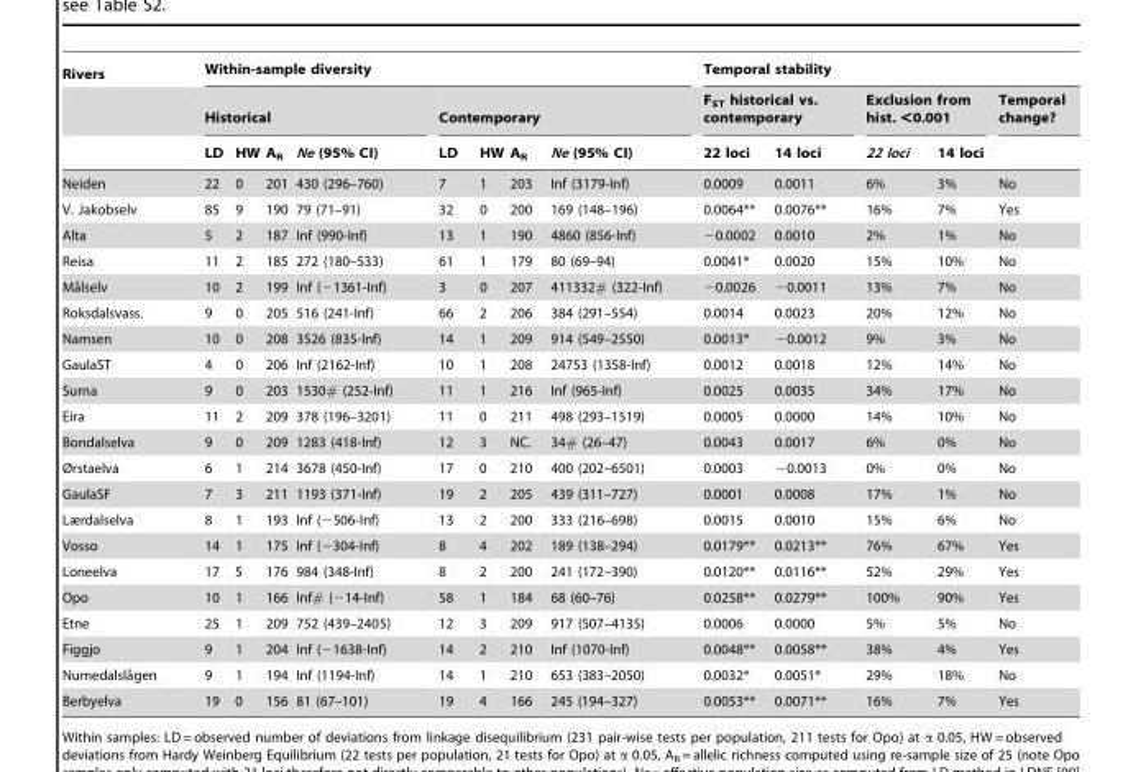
<table><thead><tr><td rowspan="3">Rivers</td><td colspan="8">Within-sample diversity</td><td colspan="5">Temporal stability</td></tr><tr><td colspan="4">Historical</td><td colspan="4">Contemporary</td><td colspan="2">F<sub>ST</sub> historical vs. contemporary</td><td colspan="2">Exclusion from hist. &lt;0.001</td><td rowspan="2">Temporal change?</td></tr><tr><td>LD</td><td>HW</td><td>A<sub>R</sub></td><td>Ne (95% CI)</td><td>LD</td><td>HW</td><td>A<sub>R</sub></td><td>Ne (95% CI)</td><td>22 loci</td><td>14 loci</td><td>22 loci</td><td>14 loci</td></tr></thead><tbody><tr><td>Neiden</td><td>22</td><td>0</td><td>201</td><td>430 (296–760)</td><td>7</td><td>1</td><td>203</td><td>Inf (3179-Inf)</td><td>0.0009</td><td>0.0011</td><td>6%</td><td>3%</td><td>No</td></tr><tr><td>V. Jakobselv</td><td>85</td><td>9</td><td>190</td><td>79 (71–91)</td><td>32</td><td>0</td><td>200</td><td>169 (148–196)</td><td>0.0064**</td><td>0.0076**</td><td>16%</td><td>7%</td><td>Yes</td></tr><tr><td>Alta</td><td>5</td><td>2</td><td>187</td><td>Inf (990-Inf)</td><td>13</td><td>1</td><td>190</td><td>4860 (856-Inf)</td><td>−0.0002</td><td>0.0010</td><td>2%</td><td>1%</td><td>No</td></tr><tr><td>Reisa</td><td>11</td><td>2</td><td>185</td><td>272 (180–533)</td><td>61</td><td>1</td><td>179</td><td>80 (69–94)</td><td>0.0041*</td><td>0.0020</td><td>15%</td><td>10%</td><td>No</td></tr><tr><td>Ma˚lselv</td><td>10</td><td>2</td><td>199</td><td>Inf (−1361-Inf)</td><td>3</td><td>0</td><td>207</td><td>411332# (322-Inf)</td><td>−0.0026</td><td>−0.0011</td><td>13%</td><td>7%</td><td>No</td></tr><tr><td>Roksdalsvass.</td><td>9</td><td>0</td><td>205</td><td>516 (241-Inf)</td><td>66</td><td>2</td><td>206</td><td>384 (291–554)</td><td>0.0014</td><td>0.0023</td><td>20%</td><td>12%</td><td>No</td></tr><tr><td>Namsen</td><td>10</td><td>0</td><td>208</td><td>3526 (835-Inf)</td><td>14</td><td>1</td><td>209</td><td>914 (549–2550)</td><td>0.0013*</td><td>−0.0012</td><td>9%</td><td>3%</td><td>No</td></tr><tr><td>GaulaST</td><td>4</td><td>0</td><td>206</td><td>Inf (2162-Inf)</td><td>10</td><td>1</td><td>208</td><td>24753 (1358-Inf)</td><td>0.0012</td><td>0.0018</td><td>12%</td><td>14%</td><td>No</td></tr><tr><td>Surna</td><td>9</td><td>0</td><td>203</td><td>1530# (252-Inf)</td><td>11</td><td>1</td><td>216</td><td>Inf (965-Inf)</td><td>0.0025</td><td>0.0035</td><td>34%</td><td>17%</td><td>No</td></tr><tr><td>Eira</td><td>11</td><td>2</td><td>209</td><td>378 (196–3201)</td><td>11</td><td>0</td><td>211</td><td>498 (293–1519)</td><td>0.0005</td><td>0.0000</td><td>14%</td><td>10%</td><td>No</td></tr><tr><td>Bondalselva</td><td>9</td><td>0</td><td>209</td><td>1283 (418-Inf)</td><td>12</td><td>3</td><td>NC.</td><td>34# (26–47)</td><td>0.0043</td><td>0.0017</td><td>6%</td><td>0%</td><td>No</td></tr><tr><td>Ørstaelva</td><td>6</td><td>1</td><td>214</td><td>3678 (450-Inf)</td><td>17</td><td>0</td><td>210</td><td>400 (202–6501)</td><td>0.0003</td><td>−0.0013</td><td>0%</td><td>0%</td><td>No</td></tr><tr><td>GaulaSF</td><td>7</td><td>3</td><td>211</td><td>1193 (371-Inf)</td><td>19</td><td>2</td><td>205</td><td>439 (311–727)</td><td>0.0001</td><td>0.0008</td><td>17%</td><td>1%</td><td>No</td></tr><tr><td>Lærdalselva</td><td>8</td><td>1</td><td>193</td><td>Inf (−506-Inf)</td><td>13</td><td>2</td><td>200</td><td>333 (216–698)</td><td>0.0015</td><td>0.0010</td><td>15%</td><td>6%</td><td>No</td></tr><tr><td>Vosso</td><td>14</td><td>1</td><td>175</td><td>Inf (−304-Inf)</td><td>8</td><td>4</td><td>202</td><td>189 (138–294)</td><td>0.0179**</td><td>0.0213**</td><td>76%</td><td>67%</td><td>Yes</td></tr><tr><td>Loneelva</td><td>17</td><td>5</td><td>176</td><td>984 (348-Inf)</td><td>8</td><td>2</td><td>200</td><td>241 (172–390)</td><td>0.0120**</td><td>0.0116**</td><td>52%</td><td>29%</td><td>Yes</td></tr><tr><td>Opo</td><td>10</td><td>1</td><td>166</td><td>Inf# (−14-Inf)</td><td>58</td><td>1</td><td>184</td><td>68 (60–76)</td><td>0.0258**</td><td>0.0279**</td><td>100%</td><td>90%</td><td>Yes</td></tr><tr><td>Etne</td><td>25</td><td>1</td><td>209</td><td>752 (439–2405)</td><td>12</td><td>3</td><td>209</td><td>917 (507–4135)</td><td>0.0006</td><td>0.0000</td><td>5%</td><td>5%</td><td>No</td></tr><tr><td>Figgjo</td><td>9</td><td>1</td><td>204</td><td>Inf (−1638-Inf)</td><td>14</td><td>2</td><td>210</td><td>Inf (1070-Inf)</td><td>0.0048**</td><td>0.0058**</td><td>38%</td><td>4%</td><td>Yes</td></tr><tr><td>Numedalsla˚gen</td><td>9</td><td>1</td><td>194</td><td>Inf (1194-Inf)</td><td>14</td><td>1</td><td>210</td><td>653 (383–2050)</td><td>0.0032*</td><td>0.0051*</td><td>29%</td><td>18%</td><td>No</td></tr><tr><td>Berbyelva</td><td>19</td><td>0</td><td>156</td><td>81 (67–101)</td><td>19</td><td>4</td><td>166</td><td>245 (194–327)</td><td>0.0053**</td><td>0.0071**</td><td>16%</td><td>7%</td><td>Yes</td></tr></tbody></table>